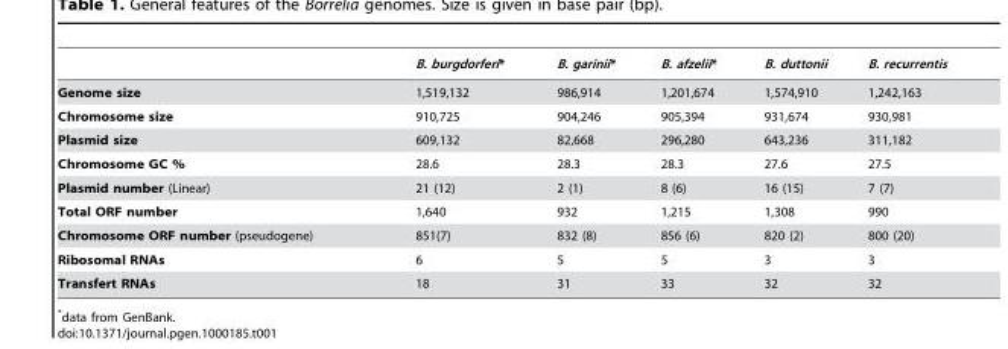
<table><thead><tr><td></td><td>B. burgdorferi*</td><td>B. garinii*</td><td>B. afzelii*</td><td>B. duttonii</td><td>B. recurrentis</td></tr></thead><tbody><tr><td>Genome size</td><td>1,519,132</td><td>986,914</td><td>1,201,674</td><td>1,574,910</td><td>1,242,163</td></tr><tr><td>Chromosome size</td><td>910,725</td><td>904,246</td><td>905,394</td><td>931,674</td><td>930,981</td></tr><tr><td>Plasmid size</td><td>609,132</td><td>82,668</td><td>296,280</td><td>643,236</td><td>311,182</td></tr><tr><td>Chromosome GC %</td><td>28.6</td><td>28.3</td><td>28.3</td><td>27.6</td><td>27.5</td></tr><tr><td>Plasmid number (Linear)</td><td>21 (12)</td><td>2 (1)</td><td>8 (6)</td><td>16 (15)</td><td>7 (7)</td></tr><tr><td>Total ORF number</td><td>1,640</td><td>932</td><td>1,215</td><td>1,308</td><td>990</td></tr><tr><td>Chromosome ORF number (pseudogene)</td><td>851(7)</td><td>832 (8)</td><td>856 (6)</td><td>820 (2)</td><td>800 (20)</td></tr><tr><td>Ribosomal RNAs</td><td>6</td><td>5</td><td>5</td><td>3</td><td>3</td></tr><tr><td>Transfert RNAs</td><td>18</td><td>31</td><td>33</td><td>32</td><td>32</td></tr></tbody></table>